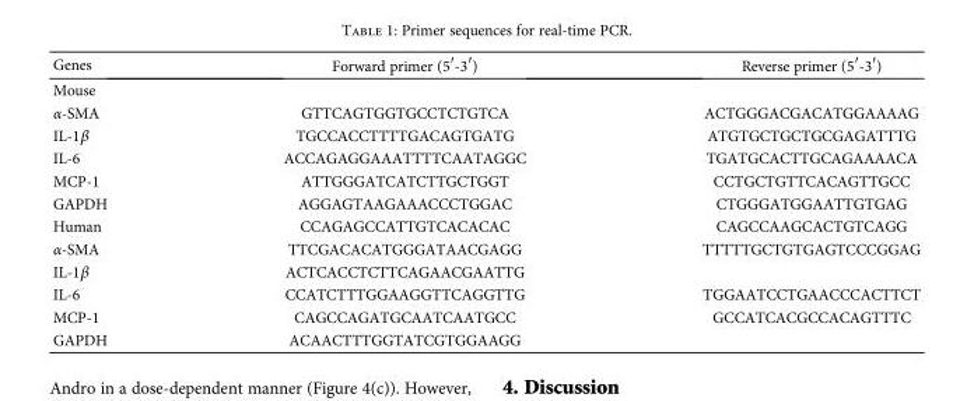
<table><thead><tr><td>Genes</td><td>Forward primer (5′-3′)</td><td>Reverse primer (5′-3′)</td></tr></thead><tbody><tr><td colspan="3">Mouse</td></tr><tr><td>α-SMA</td><td>GTTCAGTGGTGCCTCTGTCA</td><td>ACTGGGACGACATGGAAAAG</td></tr><tr><td>IL-1β</td><td>TGCCACCTTTTGACAGTGATG</td><td>ATGTGCTGCTGCGAGATTTG</td></tr><tr><td>IL-6</td><td>ACCAGAGGAAATTTTCAATAGGC</td><td>TGATGCACTTGCAGAAAACA</td></tr><tr><td>MCP-1</td><td>ATTGGGATCATCTTGCTGGT</td><td>CCTGCTGTTCACAGTTGCC</td></tr><tr><td>GAPDH</td><td>AGGAGTAAGAAACCCTGGAC</td><td>CTGGGATGGAATTGTGAG</td></tr><tr><td>Human</td><td>CCAGAGCCATTGTCACACAC</td><td>CAGCCAAGCACTGTCAGG</td></tr><tr><td>α-SMA</td><td>TTCGACACATGGGATAACGAGG</td><td>TTTTTGCTGTGAGTCCCGGAG</td></tr><tr><td>IL-1β</td><td>ACTCACCTCTTCAGAACGAATTG</td><td></td></tr><tr><td>IL-6</td><td>CCATCTTTGGAAGGTTCAGGTTG</td><td>TGGAATCCTGAACCCACTTCT</td></tr><tr><td>MCP-1</td><td>CAGCCAGATGCAATCAATGCC</td><td>GCCATCACGCCACAGTTTC</td></tr><tr><td>GAPDH</td><td>ACAACTTTGGTATCGTGGAAGG</td><td></td></tr></tbody></table>